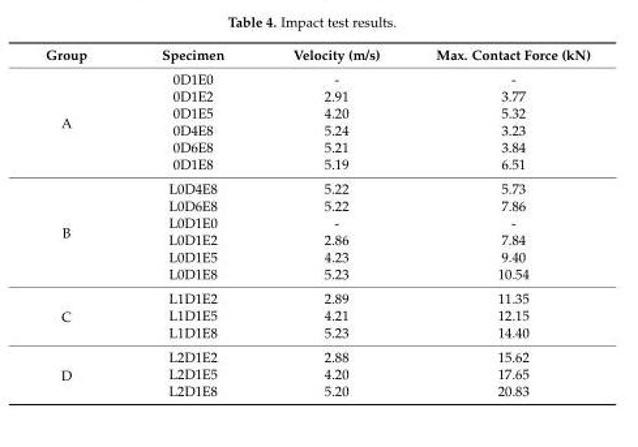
<table><thead><tr><td>Group</td><td>Specimen</td><td>Velocity (m/s)</td><td>Max. Contact Force (kN)</td></tr></thead><tbody><tr><td rowspan="6">A</td><td>0D1E0</td><td>-</td><td>-</td></tr><tr><td>0D1E2</td><td>2.91</td><td>3.77</td></tr><tr><td>0D1E5</td><td>4.20</td><td>5.32</td></tr><tr><td>0D4E8</td><td>5.24</td><td>3.23</td></tr><tr><td>0D6E8</td><td>5.21</td><td>3.84</td></tr><tr><td>0D1E8</td><td>5.19</td><td>6.51</td></tr><tr><td rowspan="6">B</td><td>L0D4E8</td><td>5.22</td><td>5.73</td></tr><tr><td>L0D6E8</td><td>5.22</td><td>7.86</td></tr><tr><td>L0D1E0</td><td>-</td><td>-</td></tr><tr><td>L0D1E2</td><td>2.86</td><td>7.84</td></tr><tr><td>L0D1E5</td><td>4.23</td><td>9.40</td></tr><tr><td>L0D1E8</td><td>5.23</td><td>10.54</td></tr><tr><td rowspan="3">C</td><td>L1D1E2</td><td>2.89</td><td>11.35</td></tr><tr><td>L1D1E5</td><td>4.21</td><td>12.15</td></tr><tr><td>L1D1E8</td><td>5.23</td><td>14.40</td></tr><tr><td rowspan="3">D</td><td>L2D1E2</td><td>2.88</td><td>15.62</td></tr><tr><td>L2D1E5</td><td>4.20</td><td>17.65</td></tr><tr><td>L2D1E8</td><td>5.20</td><td>20.83</td></tr></tbody></table>